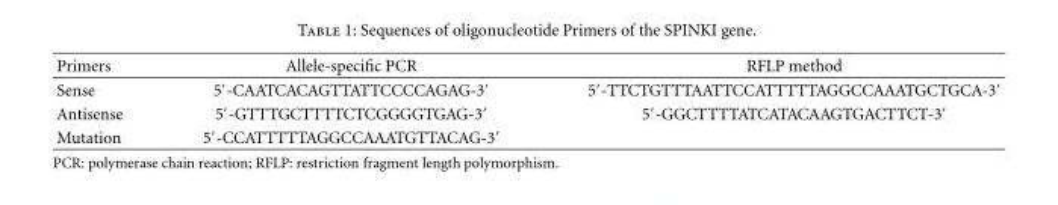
<table><thead><tr><td>Primers</td><td>Allele-specific PCR</td><td>RFLP method</td></tr></thead><tbody><tr><td>Sense</td><td>5′-CAATCACAGTTATTCCCCAGAG-3′</td><td>5′-TTCTGTTTAATTCCATTTTTAGGCCAAATGCTGCA-3′</td></tr><tr><td>Antisense</td><td>5′-GTTTGCTTTTCTCGGGGTGAG-3′</td><td>5′-GGCTTTTATCATACAAGTGACTTCT-3′</td></tr><tr><td>Mutation</td><td>5′-CCATTTTTAGGCCAAATGTTACAG-3′</td><td></td></tr></tbody></table>